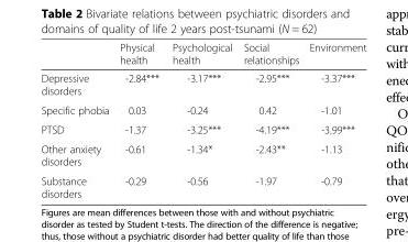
<table><thead><tr><td></td><td>Physical health</td><td>Psychological health</td><td>Social relationships</td><td>Environment</td></tr></thead><tbody><tr><td>Depressive disorders</td><td>-2.84***</td><td>-3.17***</td><td>-2.95***</td><td>-3.37***</td></tr><tr><td>Specific phobia</td><td>0.03</td><td>-0.24</td><td>0.42</td><td>-1.01</td></tr><tr><td>PTSD</td><td>-1.37</td><td>-3.25***</td><td>-4.19***</td><td>-3.99***</td></tr><tr><td>Other anxiety disorders</td><td>-0.61</td><td>-1.34*</td><td>-2.43**</td><td>-1.13</td></tr><tr><td>Substance disorders</td><td>-0.29</td><td>-0.56</td><td>-1.97</td><td>-0.79</td></tr></tbody></table>